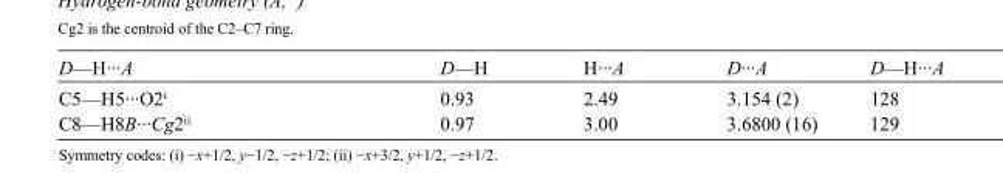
<table><tbody><tr><td>D—H···A</td><td>D—H</td><td>H···A</td><td>D···A</td><td>D—H···A</td></tr><tr><td>C5—H5···O2<sup>i</sup></td><td>0.93</td><td>2.49</td><td>3.154 (2)</td><td>128</td></tr><tr><td>C8—H8B···Cg2<sup>ii</sup></td><td>0.97</td><td>3.00</td><td>3.6800 (16)</td><td>129</td></tr></tbody></table>